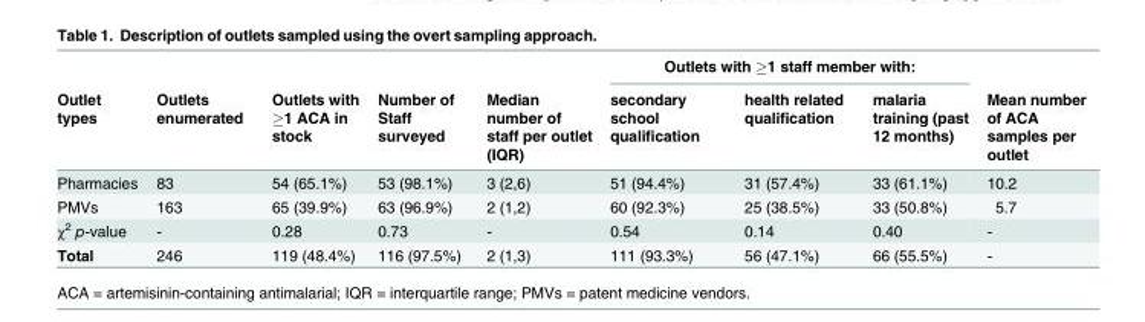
<table><thead><tr><td rowspan="2">Outlet types</td><td rowspan="2">Outlets enumerated</td><td rowspan="2">Outlets with ≥1 ACA in stock</td><td rowspan="2">Number of Staff surveyed</td><td rowspan="2">Median number of staff per outlet (IQR)</td><td colspan="3">Outlets with ≥1 staff member with:</td><td rowspan="2">Mean number of ACA samples per outlet</td></tr><tr><td>secondary school qualification</td><td>health related qualification</td><td>malaria training (past 12 months)</td></tr></thead><tbody><tr><td>Pharmacies</td><td>83</td><td>54 (65.1%)</td><td>53 (98.1%)</td><td>3 (2,6)</td><td>51 (94.4%)</td><td>31 (57.4%)</td><td>33 (61.1%)</td><td>10.2</td></tr><tr><td>PMVs</td><td>163</td><td>65 (39.9%)</td><td>63 (96.9%)</td><td>2 (1,2)</td><td>60 (92.3%)</td><td>25 (38.5%)</td><td>33 (50.8%)</td><td>5.7</td></tr><tr><td>χ<sup>2</sup> p-value</td><td>-</td><td>0.28</td><td>0.73</td><td>-</td><td>0.54</td><td>0.14</td><td>0.40</td><td>-</td></tr><tr><td>Total</td><td>246</td><td>119 (48.4%)</td><td>116 (97.5%)</td><td>2 (1,3)</td><td>111 (93.3%)</td><td>56 (47.1%)</td><td>66 (55.5%)</td><td>-</td></tr></tbody></table>